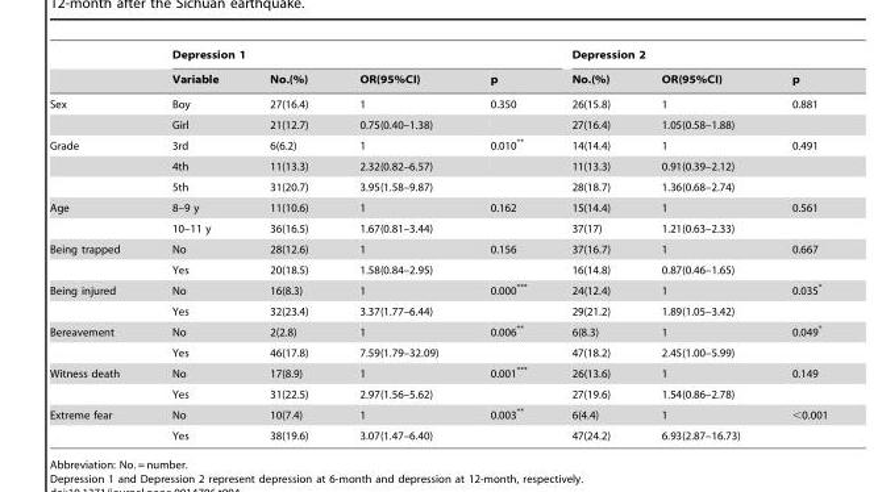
<table><thead><tr><td rowspan="2"></td><td colspan="4">Depression 1</td><td colspan="3">Depression 2</td></tr><tr><td>Variable</td><td>No.(%)</td><td>OR(95%CI)</td><td>p</td><td>No.(%)</td><td>OR(95%CI)</td><td>p</td></tr></thead><tbody><tr><td rowspan="2">Sex</td><td>Boy</td><td>27(16.4)</td><td>1</td><td>0.350</td><td>26(15.8)</td><td>1</td><td>0.881</td></tr><tr><td>Girl</td><td>21(12.7)</td><td>0.75(0.40–1.38)</td><td></td><td>27(16.4)</td><td>1.05(0.58–1.88)</td><td></td></tr><tr><td rowspan="3">Grade</td><td>3rd</td><td>6(6.2)</td><td>1</td><td>0.010**</td><td>14(14.4)</td><td>1</td><td>0.491</td></tr><tr><td>4th</td><td>11(13.3)</td><td>2.32(0.82–6.57)</td><td></td><td>11(13.3)</td><td>0.91(0.39–2.12)</td><td></td></tr><tr><td>5th</td><td>31(20.7)</td><td>3.95(1.58–9.87)</td><td></td><td>28(18.7)</td><td>1.36(0.68–2.74)</td><td></td></tr><tr><td rowspan="2">Age</td><td>8–9 y</td><td>11(10.6)</td><td>1</td><td>0.162</td><td>15(14.4)</td><td>1</td><td>0.561</td></tr><tr><td>10–11 y</td><td>36(16.5)</td><td>1.67(0.81–3.44)</td><td></td><td>37(17)</td><td>1.21(0.63–2.33)</td><td></td></tr><tr><td rowspan="2">Being trapped</td><td>No</td><td>28(12.6)</td><td>1</td><td>0.156</td><td>37(16.7)</td><td>1</td><td>0.667</td></tr><tr><td>Yes</td><td>20(18.5)</td><td>1.58(0.84–2.95)</td><td></td><td>16(14.8)</td><td>0.87(0.46–1.65)</td><td></td></tr><tr><td rowspan="2">Being injured</td><td>No</td><td>16(8.3)</td><td>1</td><td>0.000***</td><td>24(12.4)</td><td>1</td><td>0.035*</td></tr><tr><td>Yes</td><td>32(23.4)</td><td>3.37(1.77–6.44)</td><td></td><td>29(21.2)</td><td>1.89(1.05–3.42)</td><td></td></tr><tr><td rowspan="2">Bereavement</td><td>No</td><td>2(2.8)</td><td>1</td><td>0.006**</td><td>6(8.3)</td><td>1</td><td>0.049*</td></tr><tr><td>Yes</td><td>46(17.8)</td><td>7.59(1.79–32.09)</td><td></td><td>47(18.2)</td><td>2.45(1.00–5.99)</td><td></td></tr><tr><td rowspan="2">Witness death</td><td>No</td><td>17(8.9)</td><td>1</td><td>0.001***</td><td>26(13.6)</td><td>1</td><td>0.149</td></tr><tr><td>Yes</td><td>31(22.5)</td><td>2.97(1.56–5.62)</td><td></td><td>27(19.6)</td><td>1.54(0.86–2.78)</td><td></td></tr><tr><td rowspan="2">Extreme fear</td><td>No</td><td>10(7.4)</td><td>1</td><td>0.003**</td><td>6(4.4)</td><td>1</td><td>&lt;0.001</td></tr><tr><td>Yes</td><td>38(19.6)</td><td>3.07(1.47–6.40)</td><td></td><td>47(24.2)</td><td>6.93(2.87–16.73)</td><td></td></tr></tbody></table>